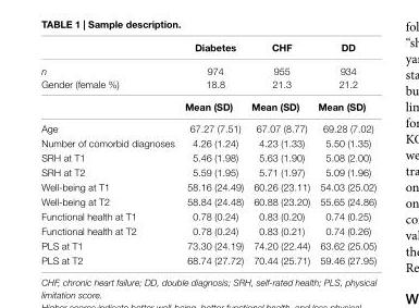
<table><thead><tr><td></td><td>Diabetes</td><td>chF</td><td>DD</td></tr></thead><tbody><tr><td>n</td><td>974</td><td>955</td><td>934</td></tr><tr><td rowspan="2">Gender (female %)</td><td>18.8</td><td>21.3</td><td>21.2</td></tr><tr><td>Mean (sD)</td><td>Mean (sD)</td><td>Mean (sD)</td></tr><tr><td>Age</td><td>67.27 (7.51)</td><td>67.07 (8.77)</td><td>69.28 (7.02)</td></tr><tr><td>Number of comorbid diagnoses</td><td>4.26 (1.24)</td><td>4.23 (1.33)</td><td>5.50 (1.35)</td></tr><tr><td>SRH at T1</td><td>5.46 (1.98)</td><td>5.63 (1.90)</td><td>5.08 (2.00)</td></tr><tr><td>SRH at T2</td><td>5.59 (1.95)</td><td>5.71 (1.97)</td><td>5.09 (1.96)</td></tr><tr><td>Well-being at T1</td><td>58.16 (24.49)</td><td>60.26 (23.11)</td><td>54.03 (25.02)</td></tr><tr><td>Well-being at T2</td><td>58.84 (24.48)</td><td>60.88 (23.20)</td><td>55.65 (24.86)</td></tr><tr><td>Functional health at T1</td><td>0.78 (0.24)</td><td>0.83 (0.20)</td><td>0.74 (0.25)</td></tr><tr><td>Functional health at T2</td><td>0.78 (0.24)</td><td>0.83 (0.21)</td><td>0.74 (0.26)</td></tr><tr><td>PLS at T1</td><td>73.30 (24.19)</td><td>74.20 (22.44)</td><td>63.62 (25.05)</td></tr><tr><td>PLS at T2</td><td>68.74 (27.72)</td><td>70.44 (25.71)</td><td>59.46 (27.95)</td></tr></tbody></table>